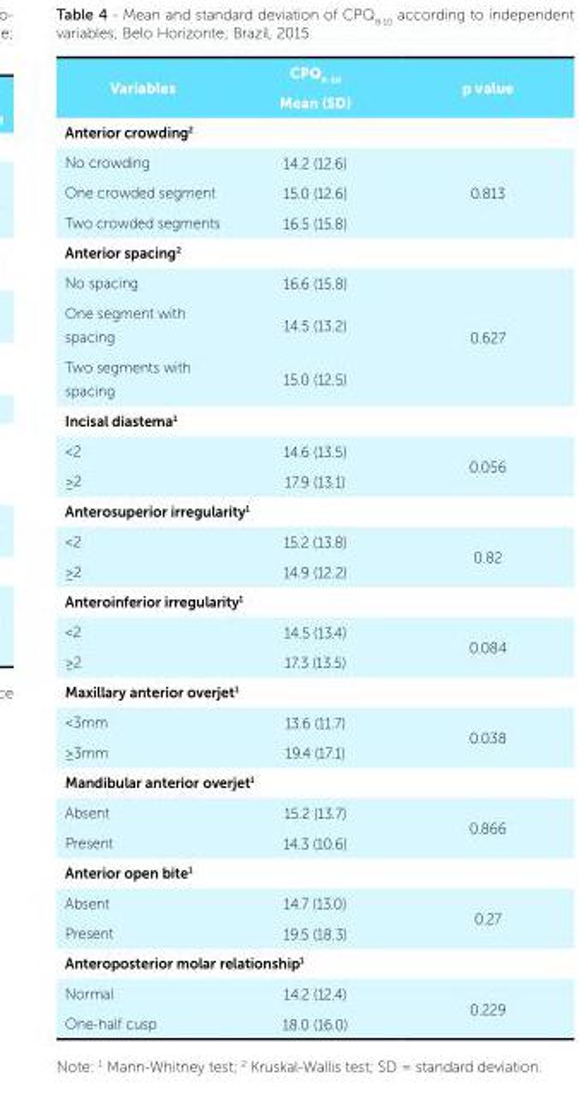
<table><tbody><tr><td rowspan="2">Variables</td><td>CPQ<sub>8-10</sub></td><td rowspan="2">p value</td></tr><tr><td>Mean (SD)</td></tr><tr><td colspan="3">Anterior crowding<sup>2</sup></td></tr><tr><td>No crowding</td><td>14.2 (12.6)</td><td rowspan="3">0.813</td></tr><tr><td>One crowded segment</td><td>15.0 (12.6)</td></tr><tr><td>Two crowded segments</td><td>16.5 (15.8)</td></tr><tr><td colspan="3">Anterior spacing<sup>2</sup></td></tr><tr><td>No spacing</td><td>16.6 (15.8)</td><td rowspan="3">0.627</td></tr><tr><td>One segment with spacing</td><td>14.5 (13.2)</td></tr><tr><td>Two segments with spacing</td><td>15.0 (12.5)</td></tr><tr><td colspan="3">Incisal diastema<sup>1</sup></td></tr><tr><td>&lt;2</td><td>14.6 (13.5)</td><td rowspan="2">0.056</td></tr><tr><td>≥2</td><td>17.9 (13.1)</td></tr><tr><td colspan="3">Anterosuperior irregularity<sup>1</sup></td></tr><tr><td>&lt;2</td><td>15.2 (13.8)</td><td rowspan="2">0.82</td></tr><tr><td>≥2</td><td>14.9 (12.2)</td></tr><tr><td colspan="3">Anteroinferior irregularity<sup>1</sup></td></tr><tr><td>&lt;2</td><td>14.5 (13.4)</td><td rowspan="2">0.084</td></tr><tr><td>≥2</td><td>17.3 (13.5)</td></tr><tr><td colspan="3">Maxillary anterior overjet<sup>1</sup></td></tr><tr><td>&lt;3mm</td><td>13.6 (11.7)</td><td rowspan="2">0.038</td></tr><tr><td>≥3mm</td><td>19.4 (17.1)</td></tr><tr><td colspan="3">Mandibular anterior overjet<sup>1</sup></td></tr><tr><td>Absent</td><td>15.2 (13.7)</td><td rowspan="2">0.866</td></tr><tr><td>Present</td><td>14.3 (10.6)</td></tr><tr><td colspan="3">Anterior open bite<sup>1</sup></td></tr><tr><td>Absent</td><td>14.7 (13.0)</td><td rowspan="2">0.27</td></tr><tr><td>Present</td><td>19.5 (18.3)</td></tr><tr><td colspan="3">Anteroposterior molar relationship<sup>1</sup></td></tr><tr><td>Normal</td><td>14.2 (12.4)</td><td rowspan="2">0.229</td></tr><tr><td>One-half cusp</td><td>18.0 (16.0)</td></tr></tbody></table>